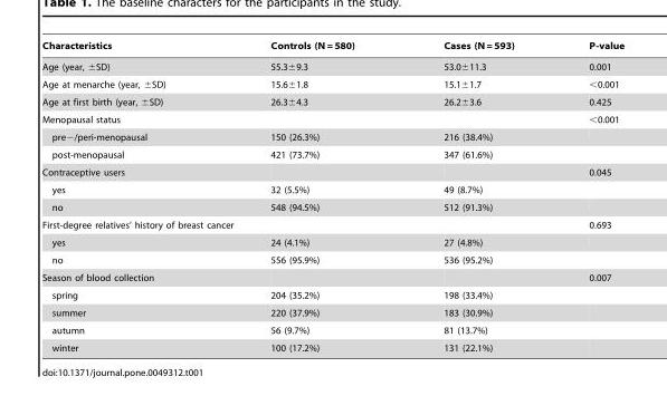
<table><thead><tr><td>Characteristics</td><td>Controls (N = 580)</td><td>Cases (N = 593)</td><td>P-value</td></tr></thead><tbody><tr><td>Age (year, ±SD)</td><td>55.3±9.3</td><td>53.0±11.3</td><td>0.001</td></tr><tr><td>Age at menarche (year, ±SD)</td><td>15.6±1.8</td><td>15.1±1.7</td><td>&lt;0.001</td></tr><tr><td>Age at first birth (year, ±SD)</td><td>26.3±4.3</td><td>26.2±3.6</td><td>0.425</td></tr><tr><td>Menopausal status</td><td></td><td></td><td>&lt;0.001</td></tr><tr><td>pre−/peri-menopausal</td><td>150 (26.3%)</td><td>216 (38.4%)</td><td></td></tr><tr><td>post-menopausal</td><td>421 (73.7%)</td><td>347 (61.6%)</td><td></td></tr><tr><td>Contraceptive users</td><td></td><td></td><td>0.045</td></tr><tr><td>yes</td><td>32 (5.5%)</td><td>49 (8.7%)</td><td></td></tr><tr><td>no</td><td>548 (94.5%)</td><td>512 (91.3%)</td><td></td></tr><tr><td>First-degree relatives’ history of breast cancer</td><td></td><td></td><td>0.693</td></tr><tr><td>yes</td><td>24 (4.1%)</td><td>27 (4.8%)</td><td></td></tr><tr><td>no</td><td>556 (95.9%)</td><td>536 (95.2%)</td><td></td></tr><tr><td>Season of blood collection</td><td></td><td></td><td>0.007</td></tr><tr><td>spring</td><td>204 (35.2%)</td><td>198 (33.4%)</td><td></td></tr><tr><td>summer</td><td>220 (37.9%)</td><td>183 (30.9%)</td><td></td></tr><tr><td>autumn</td><td>56 (9.7%)</td><td>81 (13.7%)</td><td></td></tr><tr><td>winter</td><td>100 (17.2%)</td><td>131 (22.1%)</td><td></td></tr></tbody></table>